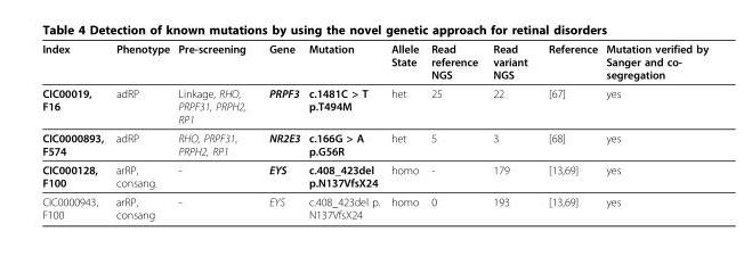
<table><thead><tr><td>Index</td><td>Phenotype</td><td>Pre-screening</td><td>Gene</td><td>Mutation</td><td>Allele State</td><td>Read reference NGS</td><td>Read variant NGS</td><td>Reference</td><td>Mutation verified by Sanger and co- segregation</td></tr></thead><tbody><tr><td>CIC00019, F16</td><td>adRP</td><td>Linkage, RHO, PRPF31, PRPH2, RP1</td><td>PRPF3</td><td>c.1481C &gt; T p.T494M</td><td>het</td><td>25</td><td>22</td><td>[67]</td><td>yes</td></tr><tr><td>CIC0000893, F574</td><td>adRP</td><td>RHO, PRPF31, PRPH2, RP1</td><td>NR2E3</td><td>c.166G &gt; A p.G56R</td><td>het</td><td>5</td><td>3</td><td>[68]</td><td>yes</td></tr><tr><td>CIC000128, F100</td><td>arRP, consang.</td><td>-</td><td>EYS</td><td>c.408_423del p.N137VfsX24</td><td>homo</td><td>-</td><td>179</td><td>[13,69]</td><td>yes</td></tr><tr><td>CIC0000943, F100</td><td>arRP, consang</td><td>-</td><td>EYS</td><td>c.408_423del p. N137VfsX24</td><td>homo</td><td>0</td><td>193</td><td>[13,69]</td><td>yes</td></tr></tbody></table>